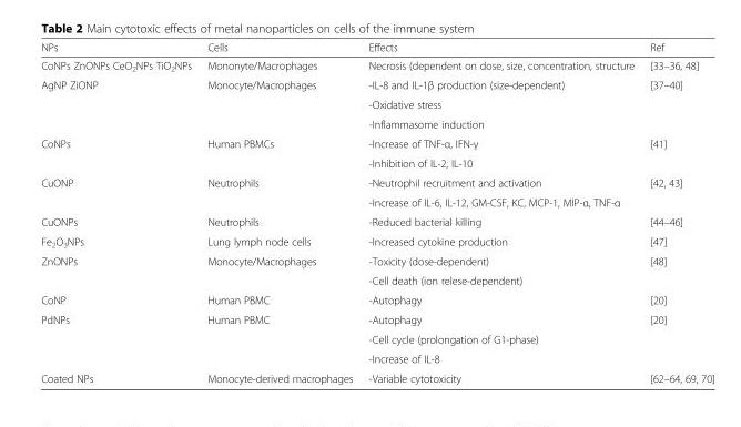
<table><thead><tr><td>NPs</td><td>Cells</td><td>Effects</td><td>Ref</td></tr></thead><tbody><tr><td>CoNPs ZnONPs CeO<sub>2</sub>NPs TiO<sub>2</sub>NPs</td><td>Mononyte/Macrophages</td><td>Necrosis (dependent on dose, size, concentration, structure</td><td>[33–36, 48]</td></tr><tr><td rowspan="3">AgNP ZiONP</td><td rowspan="3">Monocyte/Macrophages</td><td>-IL-8 and IL-1β production (size-dependent)</td><td rowspan="3">[37–40]</td></tr><tr><td>-Oxidative stress</td></tr><tr><td>-Inflammasome induction</td></tr><tr><td rowspan="2">CoNPs</td><td rowspan="2">Human PBMCs</td><td>-Increase of TNF-α, IFN-γ</td><td rowspan="2">[41]</td></tr><tr><td>-Inhibition of IL-2, IL-10</td></tr><tr><td rowspan="2">CuONP</td><td rowspan="2">Neutrophils</td><td>-Neutrophil recruitment and activation</td><td rowspan="2">[42, 43]</td></tr><tr><td>-Increase of IL-6, IL-12, GM-CSF, KC, MCP-1, MIP-α, TNF-α</td></tr><tr><td>CuONPs</td><td>Neutrophils</td><td>-Reduced bacterial killing</td><td>[44–46]</td></tr><tr><td>Fe<sub>2</sub>O<sub>3</sub>NPs</td><td>Lung lymph node cells</td><td>-Increased cytokine production</td><td>[47]</td></tr><tr><td rowspan="2">ZnONPs</td><td rowspan="2">Monocyte/Macrophages</td><td>-Toxicity (dose-dependent)</td><td rowspan="2">[48]</td></tr><tr><td>-Cell death (ion relese-dependent)</td></tr><tr><td>CoNP</td><td>Human PBMC</td><td>-Autophagy</td><td>[20]</td></tr><tr><td rowspan="3">PdNPs</td><td rowspan="3">Human PBMC</td><td>-Autophagy</td><td rowspan="3">[20]</td></tr><tr><td>-Cell cycle (prolongation of G1-phase)</td></tr><tr><td>-Increase of IL-8</td></tr><tr><td>Coated NPs</td><td>Monocyte-derived macrophages</td><td>-Variable cytotoxicity</td><td>[62–64, 69,</td></tr></tbody></table>